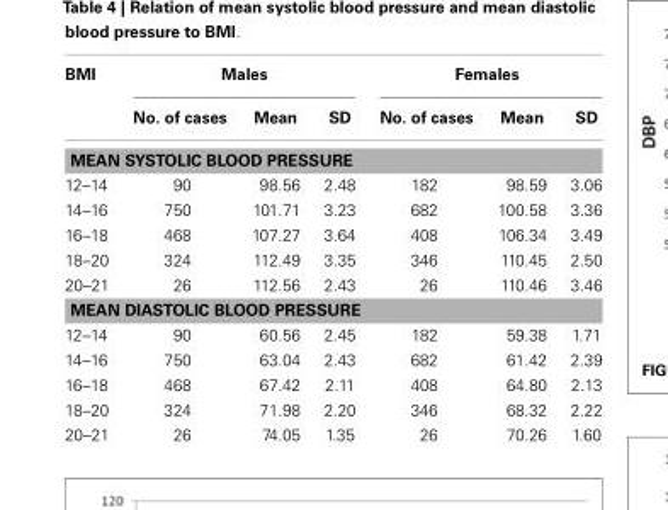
<table><thead><tr><td rowspan="2">BMI</td><td colspan="3">Males</td><td colspan="3">Females</td></tr><tr><td>No. of cases</td><td>Mean</td><td>SD</td><td>No. of cases</td><td>Mean</td><td>SD</td></tr></thead><tbody><tr><td colspan="7">MEAN SYSTOLIC BLOOD PRESSURE</td></tr><tr><td>12–14</td><td>90</td><td>98.56</td><td>2.48</td><td>182</td><td>98.59</td><td>3.06</td></tr><tr><td>14–16</td><td>750</td><td>101.71</td><td>3.23</td><td>682</td><td>100.58</td><td>3.36</td></tr><tr><td>16–18</td><td>468</td><td>107.27</td><td>3.64</td><td>408</td><td>106.34</td><td>3.49</td></tr><tr><td>18–20</td><td>324</td><td>112.49</td><td>3.35</td><td>346</td><td>110.45</td><td>2.50</td></tr><tr><td>20–21</td><td>26</td><td>112.56</td><td>2.43</td><td>26</td><td>110.46</td><td>3.46</td></tr><tr><td colspan="7">MEAN DIASTOLIC BLOOD PRESSURE</td></tr><tr><td>12–14</td><td>90</td><td>60.56</td><td>2.45</td><td>182</td><td>59.38</td><td>1.71</td></tr><tr><td>14–16</td><td>750</td><td>63.04</td><td>2.43</td><td>682</td><td>61.42</td><td>2.39</td></tr><tr><td>16–18</td><td>468</td><td>67.42</td><td>2.11</td><td>408</td><td>64.80</td><td>2.13</td></tr><tr><td>18–20</td><td>324</td><td>71.98</td><td>2.20</td><td>346</td><td>68.32</td><td>2.22</td></tr><tr><td>20–21</td><td>26</td><td>74.05</td><td>1.35</td><td>26</td><td>70.26</td><td>1.60</td></tr></tbody></table>